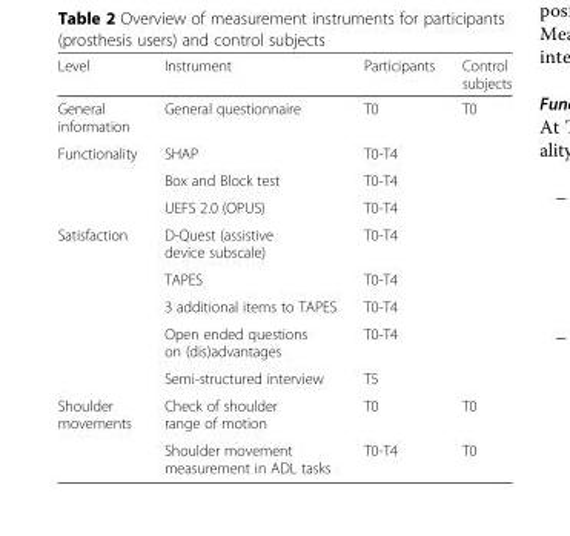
<table><thead><tr><td>Level</td><td>Instrument</td><td>Participants</td><td>Control subjects</td></tr></thead><tbody><tr><td>General information</td><td>General questionnaire</td><td>T0</td><td>T0</td></tr><tr><td rowspan="3">Functionality</td><td>SHAP</td><td>T0-T4</td><td></td></tr><tr><td>Box and Block test</td><td>T0-T4</td><td></td></tr><tr><td>UEFS 2.0 (OPUS)</td><td>T0-T4</td><td></td></tr><tr><td rowspan="5">Satisfaction</td><td>D-Quest (assistive device subscale)</td><td>T0-T4</td><td></td></tr><tr><td>TAPES</td><td>T0-T4</td><td></td></tr><tr><td>3 additional items to TAPES</td><td>T0-T4</td><td></td></tr><tr><td>Open ended questions on (dis)advantages</td><td>T0-T4</td><td></td></tr><tr><td>Semi-structured interview</td><td>T5</td><td></td></tr><tr><td rowspan="2">Shoulder movements</td><td>Check of shoulder range of motion</td><td>T0</td><td>T0</td></tr><tr><td>Shoulder movement measurement in ADL tasks</td><td>T0-T4</td><td>T0</td></tr></tbody></table>